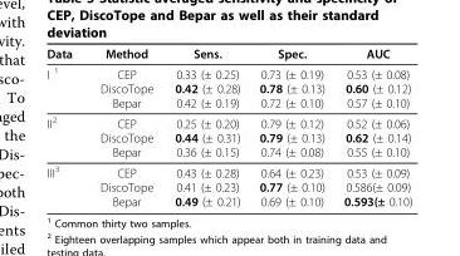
<table><thead><tr><td>Data</td><td>Method</td><td>Sens.</td><td>Spec.</td><td>AUC</td></tr></thead><tbody><tr><td>I <sup>1</sup></td><td>CEP DiscoTope Bepar</td><td>0.33 (± 0.25) 0.42 (± 0.28) 0.42 (± 0.19)</td><td>0.73 (± 0.19) 0.78 (± 0.13) 0.72 (± 0.10)</td><td>0.53 (± 0.08) 0.60 (± 0.12) 0.57 (± 0.10)</td></tr><tr><td>II<sup>2</sup></td><td>CEP DiscoTope Bepar</td><td>0.25 (± 0.20) 0.44 (± 0.31) 0.36 (± 0.15)</td><td>0.79 (± 0.12) 0.79 (± 0.13) 0.74 (± 0.08)</td><td>0.52 (± 0.06) 0.62 (± 0.14) 0.55 (± 0.10)</td></tr><tr><td>III<sup>3</sup></td><td>CEP DiscoTope Bepar</td><td>0.43 (± 0.28) 0.41 (± 0.23) 0.49 (± 0.21)</td><td>0.64 (± 0.23) 0.77 (± 0.10) 0.69 (± 0.10)</td><td>0.53 (± 0.09) 0.586(± 0.09) 0.593(± 0.10)</td></tr></tbody></table>